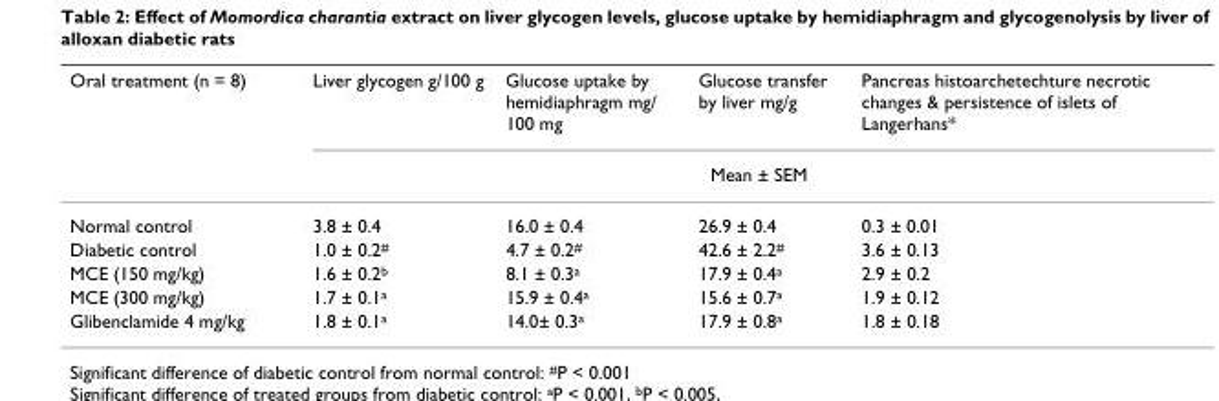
<table><thead><tr><td rowspan="2">Oral treatment (n = 8)</td><td>Liver glycogen g/100 g</td><td>Glucose uptake by hemidiaphragm mg/ 100 mg</td><td>Glucose transfer by liver mg/g</td><td>Pancreas histoarchetechture necrotic changes &amp; persistence of islets of Langerhans*</td></tr><tr><td colspan="4">Mean ± SEM</td></tr></thead><tbody><tr><td>Normal control</td><td>3.8 ± 0.4</td><td>16.0 ± 0.4</td><td>26.9 ± 0.4</td><td>0.3 ± 0.01</td></tr><tr><td>Diabetic control</td><td>1.0 ± 0.2<sup>#</sup></td><td>4.7 ± 0.2<sup>#</sup></td><td>42.6 ± 2.2<sup>#</sup></td><td>3.6 ± 0.13</td></tr><tr><td>MCE (150 mg/kg)</td><td>1.6 ± 0.2<sup>b</sup></td><td>8.1 ± 0.3<sup>a</sup></td><td>17.9 ± 0.4<sup>a</sup></td><td>2.9 ± 0.2</td></tr><tr><td>MCE (300 mg/kg)</td><td>1.7 ± 0.1<sup>a</sup></td><td>15.9 ± 0.4<sup>a</sup></td><td>15.6 ± 0.7<sup>a</sup></td><td>1.9 ± 0.12</td></tr><tr><td>Glibenclamide 4 mg/kg</td><td>1.8 ± 0.1<sup>a</sup></td><td>14.0± 0.3<sup>a</sup></td><td>17.9 ± 0.8<sup>a</sup></td><td>1.8 ± 0.18</td></tr></tbody></table>